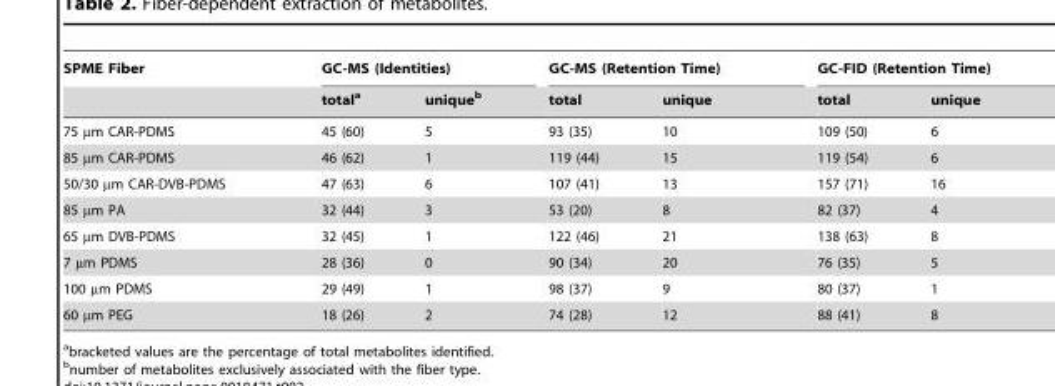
<table><thead><tr><td rowspan="2">SPME Fiber</td><td colspan="2">GC-MS (Identities)</td><td colspan="2">GC-MS (Retention Time)</td><td colspan="2">GC-FID (Retention Time)</td></tr><tr><td>total<sup>a</sup></td><td>unique<sup>b</sup></td><td>total</td><td>unique</td><td>total</td><td>unique</td></tr></thead><tbody><tr><td>75 µm CAR-PDMS</td><td>45 (60)</td><td>5</td><td>93 (35)</td><td>10</td><td>109 (50)</td><td>6</td></tr><tr><td>85 µm CAR-PDMS</td><td>46 (62)</td><td>1</td><td>119 (44)</td><td>15</td><td>119 (54)</td><td>6</td></tr><tr><td>50/30 µm CAR-DVB-PDMS</td><td>47 (63)</td><td>6</td><td>107 (41)</td><td>13</td><td>157 (71)</td><td>16</td></tr><tr><td>85 µm PA</td><td>32 (44)</td><td>3</td><td>53 (20)</td><td>8</td><td>82 (37)</td><td>4</td></tr><tr><td>65 µm DVB-PDMS</td><td>32 (45)</td><td>1</td><td>122 (46)</td><td>21</td><td>138 (63)</td><td>8</td></tr><tr><td>7 µm PDMS</td><td>28 (36)</td><td>0</td><td>90 (34)</td><td>20</td><td>76 (35)</td><td>5</td></tr><tr><td>100 µm PDMS</td><td>29 (49)</td><td>1</td><td>98 (37)</td><td>9</td><td>80 (37)</td><td>1</td></tr><tr><td>60 µm PEG</td><td>18 (26)</td><td>2</td><td>74 (28)</td><td>12</td><td>88 (41)</td><td>8</td></tr></tbody></table>